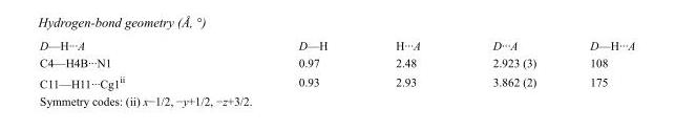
<table><tbody><tr><td>D—H···A</td><td>D—H</td><td>H···A</td><td>D···A</td><td>D—H···A</td></tr><tr><td>C4—H4B···N1</td><td>0.97</td><td>2.48</td><td>2.923 (3)</td><td>108</td></tr><tr><td>C11—H11···Cg1<sup>ii</sup></td><td>0.93</td><td>2.93</td><td>3.862 (2)</td><td>175</td></tr></tbody></table>